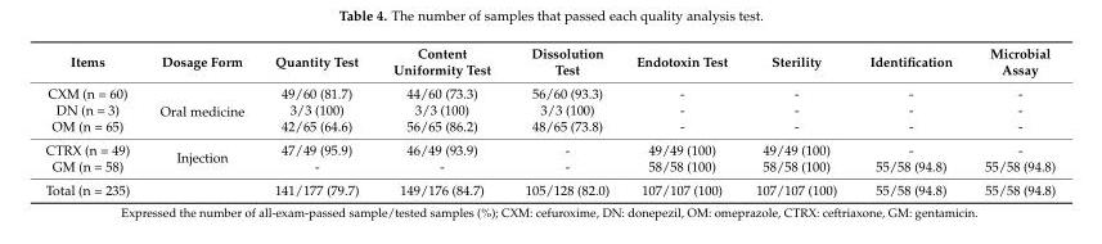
<table><thead><tr><td>Items</td><td>Dosage Form</td><td>Quantity Test</td><td>Content Uniformity Test</td><td>Dissolution Test</td><td>Endotoxin Test</td><td>Sterility</td><td>Identification</td><td>Microbial Assay</td></tr></thead><tbody><tr><td>CXM (n = 60)</td><td rowspan="3">Oral medicine</td><td>49/60 (81.7)</td><td>44/60 (73.3)</td><td>56/60 (93.3)</td><td>-</td><td>-</td><td>-</td><td>-</td></tr><tr><td>DN (n = 3)</td><td>3/3 (100)</td><td>3/3 (100)</td><td>3/3 (100)</td><td>-</td><td>-</td><td>-</td><td>-</td></tr><tr><td>OM (n = 65)</td><td>42/65 (64.6)</td><td>56/65 (86.2)</td><td>48/65 (73.8)</td><td>-</td><td>-</td><td>-</td><td>-</td></tr><tr><td>CTRX (n = 49)</td><td rowspan="2">Injection</td><td>47/49 (95.9)</td><td>46/49 (93.9)</td><td>-</td><td>49/49 (100)</td><td>49/49 (100)</td><td>-</td><td>-</td></tr><tr><td>GM (n = 58)</td><td>-</td><td>-</td><td>-</td><td>58/58 (100)</td><td>58/58 (100)</td><td>55/58 (94.8)</td><td>55/58 (94.8)</td></tr><tr><td>Total (n = 235)</td><td></td><td>141/177 (79.7)</td><td>149/176 (84.7)</td><td>105/128 (82.0)</td><td>107/107 (100)</td><td>107/107 (100)</td><td>55/58 (94.8)</td><td>55/58 (94.8)</td></tr></tbody></table>